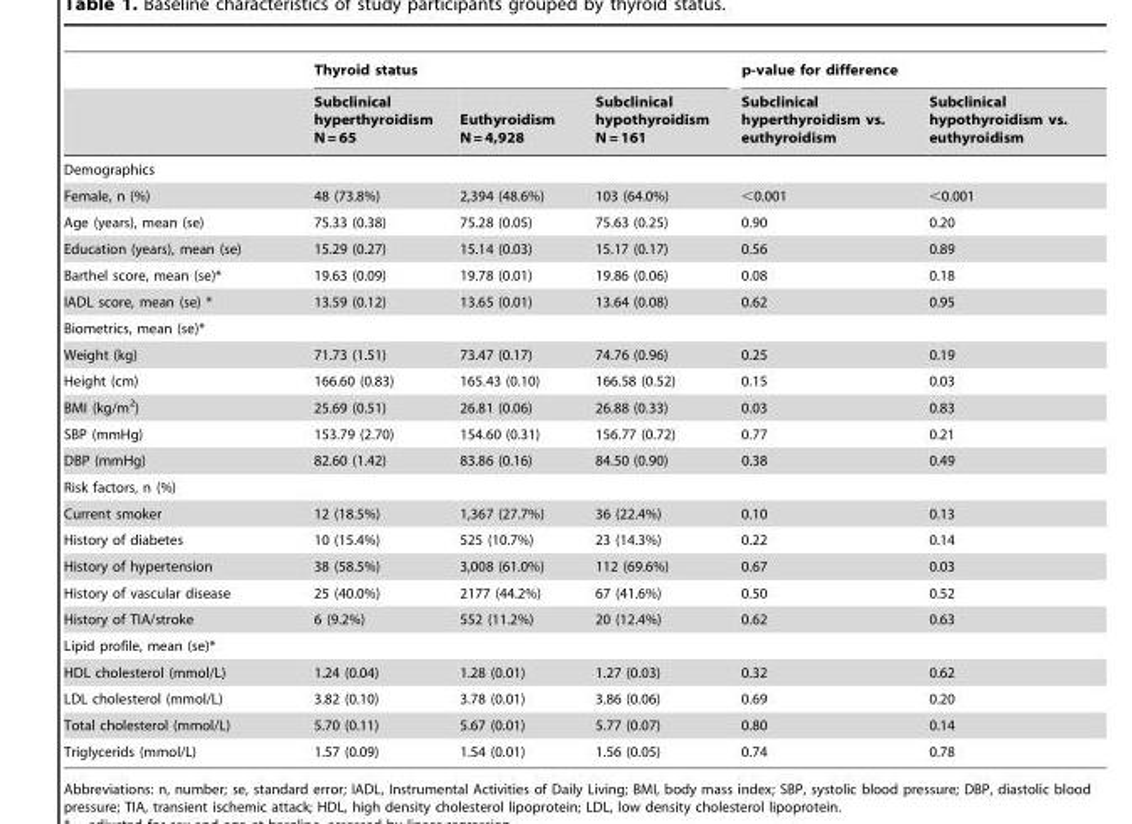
<table><thead><tr><td rowspan="2"></td><td colspan="3">Thyroid status</td><td colspan="2">p-value for difference</td></tr><tr><td>Subclinical hyperthyroidism N = 65</td><td>Euthyroidism N = 4,928</td><td>Subclinical hypothyroidism N = 161</td><td>Subclinical hyperthyroidism vs. euthyroidism</td><td>Subclinical hypothyroidism vs. euthyroidism</td></tr></thead><tbody><tr><td colspan="6">Demographics</td></tr><tr><td>Female, n (%)</td><td>48 (73.8%)</td><td>2,394 (48.6%)</td><td>103 (64.0%)</td><td>&lt;0.001</td><td>&lt;0.001</td></tr><tr><td>Age (years), mean (se)</td><td>75.33 (0.38)</td><td>75.28 (0.05)</td><td>75.63 (0.25)</td><td>0.90</td><td>0.20</td></tr><tr><td>Education (years), mean (se)</td><td>15.29 (0.27)</td><td>15.14 (0.03)</td><td>15.17 (0.17)</td><td>0.56</td><td>0.89</td></tr><tr><td>Barthel score, mean (se)*</td><td>19.63 (0.09)</td><td>19.78 (0.01)</td><td>19.86 (0.06)</td><td>0.08</td><td>0.18</td></tr><tr><td>IADL score, mean (se) *</td><td>13.59 (0.12)</td><td>13.65 (0.01)</td><td>13.64 (0.08)</td><td>0.62</td><td>0.95</td></tr><tr><td colspan="6">Biometrics, mean (se)*</td></tr><tr><td>Weight (kg)</td><td>71.73 (1.51)</td><td>73.47 (0.17)</td><td>74.76 (0.96)</td><td>0.25</td><td>0.19</td></tr><tr><td>Height (cm)</td><td>166.60 (0.83)</td><td>165.43 (0.10)</td><td>166.58 (0.52)</td><td>0.15</td><td>0.03</td></tr><tr><td>BMI (kg/m<sup>2</sup>)</td><td>25.69 (0.51)</td><td>26.81 (0.06)</td><td>26.88 (0.33)</td><td>0.03</td><td>0.83</td></tr><tr><td>SBP (mmHg)</td><td>153.79 (2.70)</td><td>154.60 (0.31)</td><td>156.77 (0.72)</td><td>0.77</td><td>0.21</td></tr><tr><td>DBP (mmHg)</td><td>82.60 (1.42)</td><td>83.86 (0.16)</td><td>84.50 (0.90)</td><td>0.38</td><td>0.49</td></tr><tr><td colspan="6">Risk factors, n (%)</td></tr><tr><td>Current smoker</td><td>12 (18.5%)</td><td>1,367 (27.7%)</td><td>36 (22.4%)</td><td>0.10</td><td>0.13</td></tr><tr><td>History of diabetes</td><td>10 (15.4%)</td><td>525 (10.7%)</td><td>23 (14.3%)</td><td>0.22</td><td>0.14</td></tr><tr><td>History of hypertension</td><td>38 (58.5%)</td><td>3,008 (61.0%)</td><td>112 (69.6%)</td><td>0.67</td><td>0.03</td></tr><tr><td>History of vascular disease</td><td>25 (40.0%)</td><td>2177 (44.2%)</td><td>67 (41.6%)</td><td>0.50</td><td>0.52</td></tr><tr><td>History of TIA/stroke</td><td>6 (9.2%)</td><td>552 (11.2%)</td><td>20 (12.4%)</td><td>0.62</td><td>0.63</td></tr><tr><td colspan="6">Lipid profile, mean (se)*</td></tr><tr><td>HDL cholesterol (mmol/L)</td><td>1.24 (0.04)</td><td>1.28 (0.01)</td><td>1.27 (0.03)</td><td>0.32</td><td>0.62</td></tr><tr><td>LDL cholesterol (mmol/L)</td><td>3.82 (0.10)</td><td>3.78 (0.01)</td><td>3.86 (0.06)</td><td>0.69</td><td>0.20</td></tr><tr><td>Total cholesterol (mmol/L)</td><td>5.70 (0.11)</td><td>5.67 (0.01)</td><td>5.77 (0.07)</td><td>0.80</td><td>0.14</td></tr><tr><td>Triglycerids (mmol/L)</td><td>1.57 (0.09)</td><td>1.54 (0.01)</td><td>1.56 (0.05)</td><td>0.74</td><td>0.78</td></tr></tbody></table>